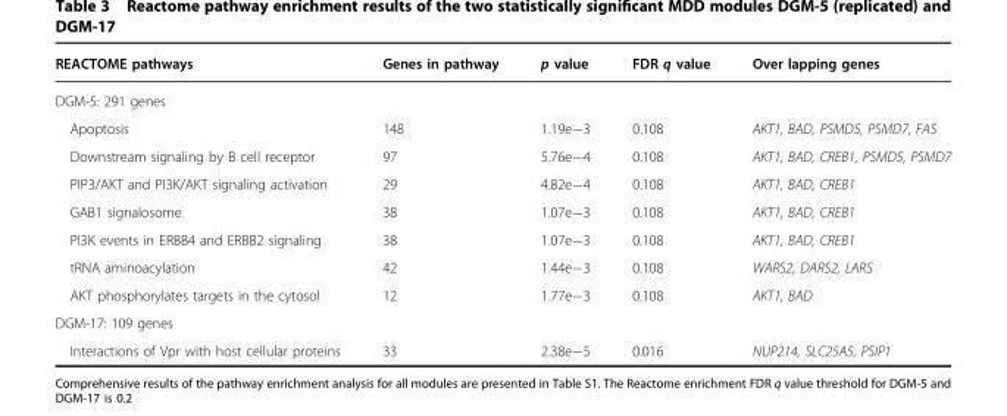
<table><thead><tr><td>REACTOME pathways</td><td>Genes in pathway</td><td>p value</td><td>FDR q value</td><td>Over lapping genes</td></tr></thead><tbody><tr><td colspan="5">DGM-5: 291 genes</td></tr><tr><td>Apoptosis</td><td>148</td><td>1.19e−3</td><td>0.108</td><td>AKT1, BAD, PSMD5, PSMD7, FAS</td></tr><tr><td>Downstream signaling by B cell receptor</td><td>97</td><td>5.76e−4</td><td>0.108</td><td>AKT1, BAD, CREB1, PSMD5, PSMD7</td></tr><tr><td>PIP3/AKT and PI3K/AKT signaling activation</td><td>29</td><td>4.82e−4</td><td>0.108</td><td>AKT1, BAD, CREB1</td></tr><tr><td>GAB1 signalosome</td><td>38</td><td>1.07e−3</td><td>0.108</td><td>AKT1, BAD, CREB1</td></tr><tr><td>PI3K events in ERBB4 and ERBB2 signaling</td><td>38</td><td>1.07e−3</td><td>0.108</td><td>AKT1, BAD, CREB1</td></tr><tr><td>tRNA aminoacylation</td><td>42</td><td>1.44e−3</td><td>0.108</td><td>WARS2, DARS2, LARS</td></tr><tr><td>AKT phosphorylates targets in the cytosol</td><td>12</td><td>1.77e−3</td><td>0.108</td><td>AKT1, BAD</td></tr><tr><td colspan="5">DGM-17: 109 genes</td></tr><tr><td>Interactions of Vpr with host cellular proteins</td><td>33</td><td>2.38e−5</td><td>0.016</td><td>NUP214, SLC25A5, PSIP1</td></tr></tbody></table>